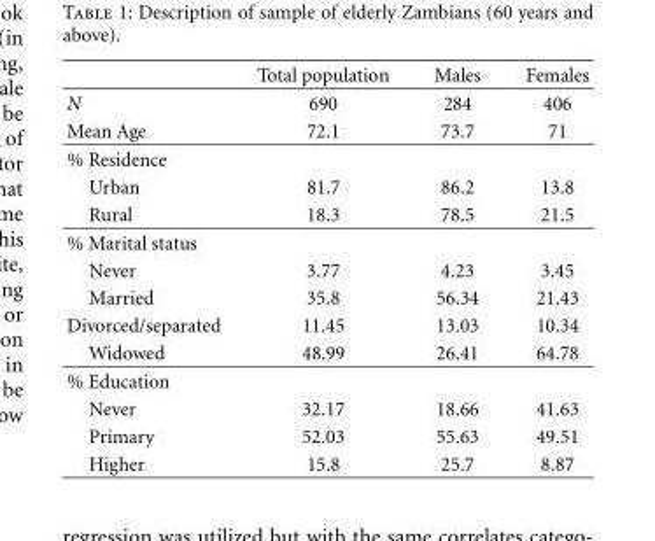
<table><thead><tr><td></td><td>Total population</td><td>Males</td><td>Females</td></tr></thead><tbody><tr><td>N</td><td>690</td><td>284</td><td>406</td></tr><tr><td>Mean Age</td><td>72.1</td><td>73.7</td><td>71</td></tr><tr><td colspan="4">% Residence</td></tr><tr><td>Urban</td><td>81.7</td><td>86.2</td><td>13.8</td></tr><tr><td>Rural</td><td>18.3</td><td>78.5</td><td>21.5</td></tr><tr><td colspan="4">% Marital status</td></tr><tr><td>Never</td><td>3.77</td><td>4.23</td><td>3.45</td></tr><tr><td>Married</td><td>35.8</td><td>56.34</td><td>21.43</td></tr><tr><td>Divorced/separated</td><td>11.45</td><td>13.03</td><td>10.34</td></tr><tr><td>Widowed</td><td>48.99</td><td>26.41</td><td>64.78</td></tr><tr><td colspan="4">% Education</td></tr><tr><td>Never</td><td>32.17</td><td>18.66</td><td>41.63</td></tr><tr><td>Primary</td><td>52.03</td><td>55.63</td><td>49.51</td></tr><tr><td>Higher</td><td>15.8</td><td>25.7</td><td>8.87</td></tr></tbody></table>